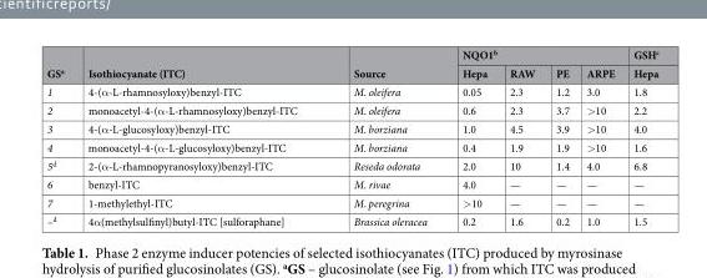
<table><thead><tr><td rowspan="2">GS<sup>a</sup></td><td rowspan="2">Isothiocyanate (ITC)</td><td rowspan="2">Source</td><td colspan="4">NQO1<sup>b</sup></td><td rowspan="2">GSH<sup>c</sup> Hepa</td></tr><tr><td>Hepa</td><td>RAW</td><td>PE</td><td>ARPE</td></tr></thead><tbody><tr><td>1</td><td>4-(α-L-rhamnosyloxy)benzyl-ITC</td><td>M. oleifera</td><td>0.05</td><td>2.3</td><td>1.2</td><td>3.0</td><td>1.8</td></tr><tr><td>2</td><td>monoacetyl-4-(α-L-rhamnosyloxy)benzyl-ITC</td><td>M. oleifera</td><td>0.6</td><td>2.3</td><td>3.7</td><td>&gt;10</td><td>2.2</td></tr><tr><td>3</td><td>4-(α-L-glucosyloxy)benzyl-ITC</td><td>M. borziana</td><td>1.0</td><td>4.5</td><td>3.9</td><td>&gt;10</td><td>4.0</td></tr><tr><td>4</td><td>monoacetyl-4-(α-L-glucosyloxy)benzyl-ITC</td><td>M. borziana</td><td>0.4</td><td>1.9</td><td>1.9</td><td>&gt;10</td><td>1.6</td></tr><tr><td>5<sup>d</sup></td><td>2-(α-L-rhamnopyranosyloxy)benzyl-ITC</td><td>Reseda odorata</td><td>2.0</td><td>10</td><td>1.4</td><td>4.0</td><td>6.8</td></tr><tr><td>6</td><td>benzyl-ITC</td><td>M. rivae</td><td>4.0</td><td>—</td><td>—</td><td>—</td><td>—</td></tr><tr><td>7</td><td>1-methylethyl-ITC</td><td>M. peregrina</td><td>&gt;10</td><td>—</td><td>—</td><td>—</td><td>—</td></tr><tr><td>–<sup>d</sup></td><td>4α(methylsulfinyl)butyl-ITC [sulforaphane]</td><td>Brassica oleracea</td><td>0.2</td><td>1.6</td><td>0.2</td><td>1.0</td><td>1.5</td></tr></tbody></table>